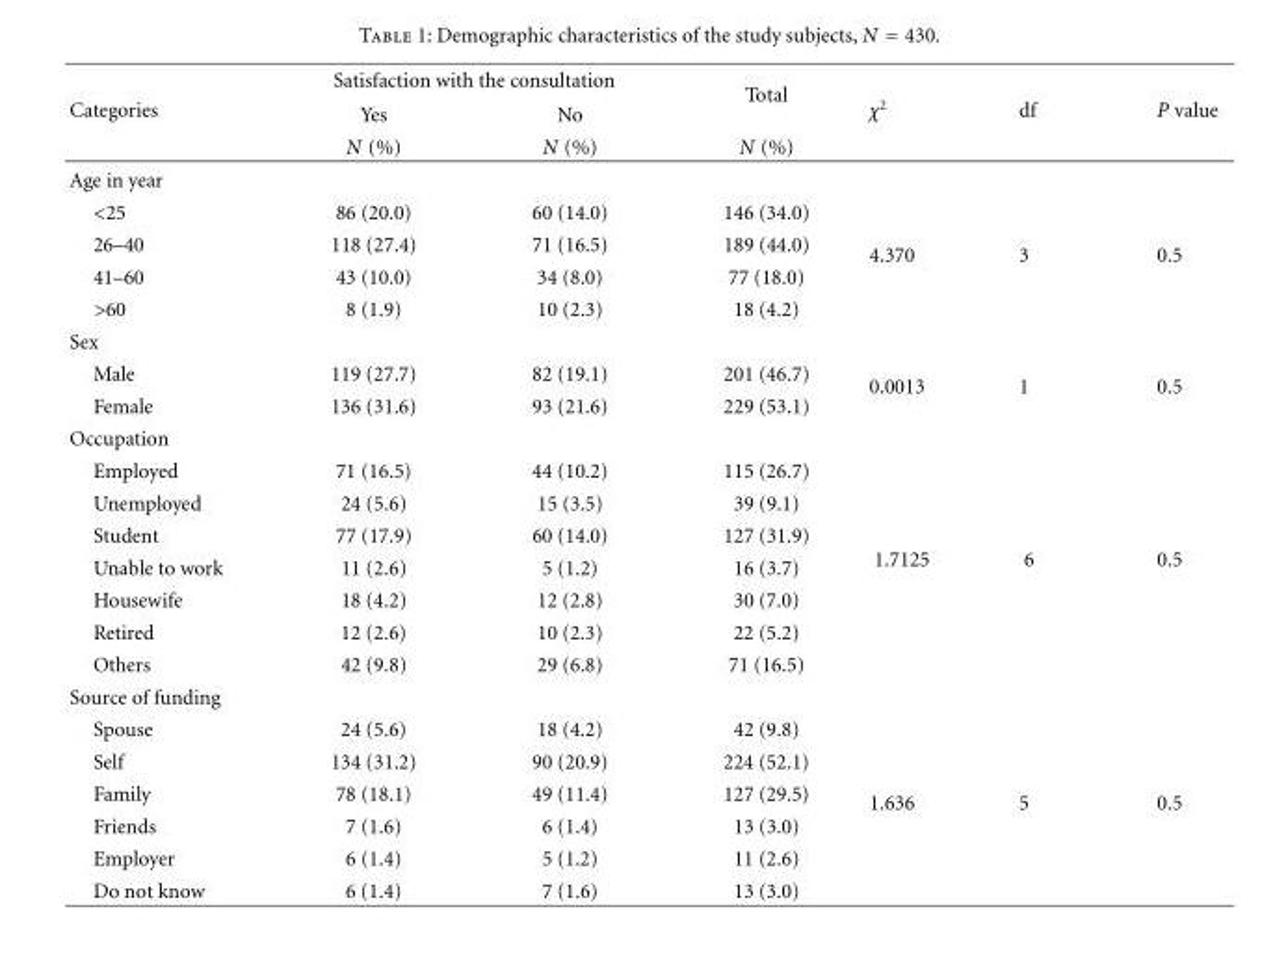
<table><thead><tr><td rowspan="3">Categories</td><td colspan="2">Satisfaction with the consultation</td><td rowspan="3">Total N (%)</td><td rowspan="3">χ<sup>2</sup></td><td rowspan="3">df</td><td rowspan="3">P value</td></tr><tr><td rowspan="2">Yes N (%)</td><td rowspan="2">No N (%)</td></tr><tr></tr></thead><tbody><tr><td colspan="7">Age in year</td></tr><tr><td>&lt;25</td><td>86 (20.0)</td><td>60 (14.0)</td><td>146 (34.0)</td><td rowspan="4">4.370</td><td rowspan="4">3</td><td rowspan="4">0.5</td></tr><tr><td>26–40</td><td>118 (27.4)</td><td>71 (16.5)</td><td>189 (44.0)</td></tr><tr><td>41–60</td><td>43 (10.0)</td><td>34 (8.0)</td><td>77 (18.0)</td></tr><tr><td>&gt;60</td><td>8 (1.9)</td><td>10 (2.3)</td><td>18 (4.2)</td></tr><tr><td colspan="7">Sex</td></tr><tr><td>Male</td><td>119 (27.7)</td><td>82 (19.1)</td><td>201 (46.7)</td><td rowspan="2">0.0013</td><td rowspan="2">1</td><td rowspan="2">0.5</td></tr><tr><td>Female</td><td>136 (31.6)</td><td>93 (21.6)</td><td>229 (53.1)</td></tr><tr><td colspan="7">Occupation</td></tr><tr><td>Employed</td><td>71 (16.5)</td><td>44 (10.2)</td><td>115 (26.7)</td><td rowspan="7">1.7125</td><td rowspan="7">6</td><td rowspan="7">0.5</td></tr><tr><td>Unemployed</td><td>24 (5.6)</td><td>15 (3.5)</td><td>39 (9.1)</td></tr><tr><td>Student</td><td>77 (17.9)</td><td>60 (14.0)</td><td>127 (31.9)</td></tr><tr><td>Unable to work</td><td>11 (2.6)</td><td>5 (1.2)</td><td>16 (3.7)</td></tr><tr><td>Housewife</td><td>18 (4.2)</td><td>12 (2.8)</td><td>30 (7.0)</td></tr><tr><td>Retired</td><td>12 (2.6)</td><td>10 (2.3)</td><td>22 (5.2)</td></tr><tr><td>Others</td><td>42 (9.8)</td><td>29 (6.8)</td><td>71 (16.5)</td></tr><tr><td colspan="7">Source of funding</td></tr><tr><td>Spouse</td><td>24 (5.6)</td><td>18 (4.2)</td><td>42 (9.8)</td><td rowspan="6">1.636</td><td rowspan="6">5</td><td rowspan="6">0.5</td></tr><tr><td>Self</td><td>134 (31.2)</td><td>90 (20.9)</td><td>224 (52.1)</td></tr><tr><td>Family</td><td>78 (18.1)</td><td>49 (11.4)</td><td>127 (29.5)</td></tr><tr><td>Friends</td><td>7 (1.6)</td><td>6 (1.4)</td><td>13 (3.0)</td></tr><tr><td>Employer</td><td>6 (1.4)</td><td>5 (1.2)</td><td>11 (2.6)</td></tr><tr><td>Do not know</td><td>6 (1.4)</td><td>7 (1.6)</td><td>13 (3.0)</td></tr></tbody></table>